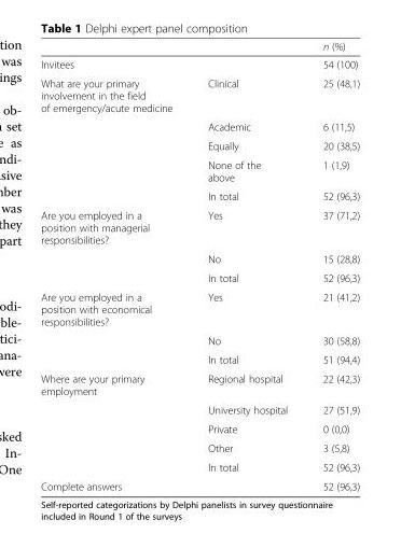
<table><thead><tr><td></td><td></td><td>n (%)</td></tr></thead><tbody><tr><td>Invitees</td><td></td><td>54 (100)</td></tr><tr><td rowspan="5">What are your primary involvement in the field of emergency/acute medicine</td><td>Clinical</td><td>25 (48,1)</td></tr><tr><td>Academic</td><td>6 (11,5)</td></tr><tr><td>Equally</td><td>20 (38,5)</td></tr><tr><td>None of the above</td><td>1 (1,9)</td></tr><tr><td>In total</td><td>52 (96,3)</td></tr><tr><td rowspan="3">Are you employed in a position with managerial responsibilities?</td><td>Yes</td><td>37 (71,2)</td></tr><tr><td>No</td><td>15 (28,8)</td></tr><tr><td>In total</td><td>52 (96,3)</td></tr><tr><td rowspan="3">Are you employed in a position with economical responsibilities?</td><td>Yes</td><td>21 (41,2)</td></tr><tr><td>No</td><td>30 (58,8)</td></tr><tr><td>In total</td><td>51 (94,4)</td></tr><tr><td rowspan="5">Where are your primary employment</td><td>Regional hospital</td><td>22 (42,3)</td></tr><tr><td>University hospital</td><td>27 (51,9)</td></tr><tr><td>Private</td><td>0 (0,0)</td></tr><tr><td>Other</td><td>3 (5,8)</td></tr><tr><td>In total</td><td>52 (96,3)</td></tr><tr><td>Complete answers</td><td></td><td>52 (96,3)</td></tr></tbody></table>